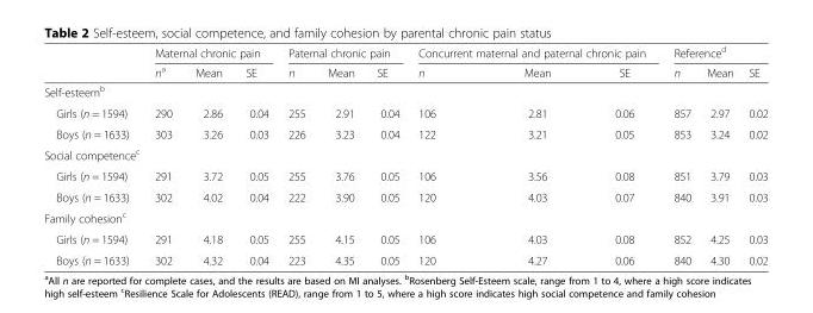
<table><thead><tr><td rowspan="2"></td><td colspan="3">Maternal chronic pain</td><td colspan="3">Paternal chronic pain</td><td colspan="3">Concurrent maternal and paternal chronic pain</td><td colspan="3">Reference<sup>d</sup></td></tr><tr><td>n<sup>a</sup></td><td>Mean</td><td>SE</td><td>n</td><td>Mean</td><td>SE</td><td>n</td><td>Mean</td><td>SE</td><td>n</td><td>Mean</td><td>SE</td></tr></thead><tbody><tr><td colspan="13">Self-esteem<sup>b</sup></td></tr><tr><td>Girls (n = 1594)</td><td>290</td><td>2.86</td><td>0.04</td><td>255</td><td>2.91</td><td>0.04</td><td>106</td><td>2.81</td><td>0.06</td><td>857</td><td>2.97</td><td>0.02</td></tr><tr><td>Boys (n = 1633)</td><td>303</td><td>3.26</td><td>0.03</td><td>226</td><td>3.23</td><td>0.04</td><td>122</td><td>3.21</td><td>0.05</td><td>853</td><td>3.24</td><td>0.02</td></tr><tr><td colspan="13">Social competence<sup>c</sup></td></tr><tr><td>Girls (n = 1594)</td><td>291</td><td>3.72</td><td>0.05</td><td>255</td><td>3.76</td><td>0.05</td><td>106</td><td>3.56</td><td>0.08</td><td>851</td><td>3.79</td><td>0.03</td></tr><tr><td>Boys (n = 1633)</td><td>302</td><td>4.02</td><td>0.04</td><td>222</td><td>3.90</td><td>0.05</td><td>120</td><td>4.03</td><td>0.07</td><td>840</td><td>3.91</td><td>0.03</td></tr><tr><td colspan="13">Family cohesion<sup>c</sup></td></tr><tr><td>Girls (n = 1594)</td><td>291</td><td>4.18</td><td>0.05</td><td>255</td><td>4.15</td><td>0.05</td><td>106</td><td>4.03</td><td>0.08</td><td>852</td><td>4.25</td><td>0.03</td></tr><tr><td>Boys (n = 1633)</td><td>302</td><td>4.32</td><td>0.04</td><td>223</td><td>4.35</td><td>0.05</td><td>120</td><td>4.27</td><td>0.06</td><td>840</td><td>4.30</td><td>0.02</td></tr></tbody></table>